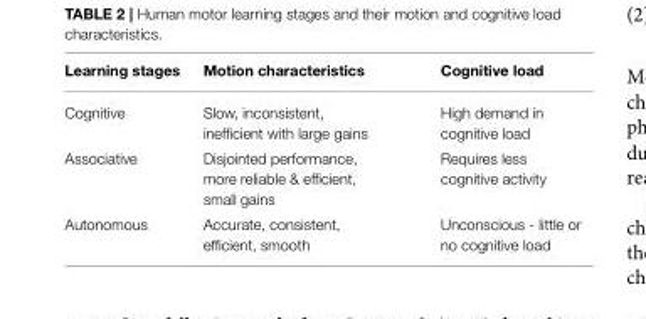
<table><thead><tr><td>Learning stages</td><td>Motion characteristics</td><td>Cognitive load</td></tr></thead><tbody><tr><td>Cognitive</td><td>Slow, inconsistent, inefficient with large gains</td><td>High demand in cognitive load</td></tr><tr><td>Associative</td><td>Disjointed performance, more reliable &amp; efficient, small gains</td><td>Requires less cognitive activity</td></tr><tr><td>Autonomous</td><td>Accurate, consistent, efficient, smooth</td><td>Unconscious - little or no cognitive load</td></tr></tbody></table>